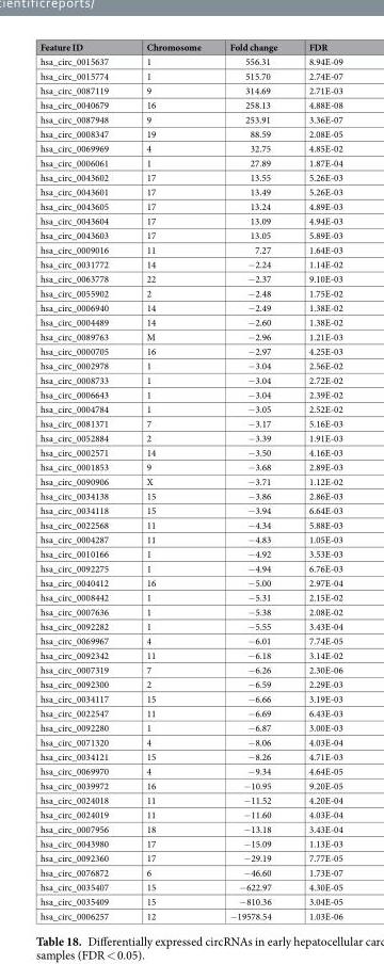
<table><thead><tr><td>Feature ID</td><td>Chromosome</td><td>Fold change</td><td>FDR</td></tr></thead><tbody><tr><td>hsa_circ_0015637</td><td>1</td><td>556.31</td><td>8.94E-09</td></tr><tr><td>hsa_circ_0015774</td><td>1</td><td>515.70</td><td>2.74E-07</td></tr><tr><td>hsa_circ_0087119</td><td>9</td><td>314.69</td><td>2.71E-03</td></tr><tr><td>hsa_circ_0040679</td><td>16</td><td>258.13</td><td>4.88E-08</td></tr><tr><td>hsa_circ_0087948</td><td>9</td><td>253.91</td><td>3.36E-07</td></tr><tr><td>hsa_circ_0008347</td><td>19</td><td>88.59</td><td>2.08E-05</td></tr><tr><td>hsa_circ_0069969</td><td>4</td><td>32.75</td><td>4.85E-02</td></tr><tr><td>hsa_circ_0006061</td><td>1</td><td>27.89</td><td>1.87E-04</td></tr><tr><td>hsa_circ_0043602</td><td>17</td><td>13.55</td><td>5.26E-03</td></tr><tr><td>hsa_circ_0043601</td><td>17</td><td>13.49</td><td>5.26E-03</td></tr><tr><td>hsa_circ_0043605</td><td>17</td><td>13.24</td><td>4.89E-03</td></tr><tr><td>hsa_circ_0043604</td><td>17</td><td>13.09</td><td>4.94E-03</td></tr><tr><td>hsa_circ_0043603</td><td>17</td><td>13.05</td><td>5.89E-03</td></tr><tr><td>hsa_circ_0009016</td><td>11</td><td>7.27</td><td>1.64E-03</td></tr><tr><td>hsa_circ_0031772</td><td>14</td><td>−2.24</td><td>1.14E-02</td></tr><tr><td>hsa_circ_0063778</td><td>22</td><td>−2.37</td><td>9.10E-03</td></tr><tr><td>hsa_circ_0055902</td><td>2</td><td>−2.48</td><td>1.75E-02</td></tr><tr><td>hsa_circ_0006940</td><td>14</td><td>−2.49</td><td>1.38E-02</td></tr><tr><td>hsa_circ_0004489</td><td>14</td><td>−2.60</td><td>1.38E-02</td></tr><tr><td>hsa_circ_0089763</td><td>M</td><td>−2.96</td><td>1.21E-03</td></tr><tr><td>hsa_circ_0000705</td><td>16</td><td>−2.97</td><td>4.25E-03</td></tr><tr><td>hsa_circ_0002978</td><td>1</td><td>−3.04</td><td>2.56E-02</td></tr><tr><td>hsa_circ_0008733</td><td>1</td><td>−3.04</td><td>2.72E-02</td></tr><tr><td>hsa_circ_0006643</td><td>1</td><td>−3.04</td><td>2.39E-02</td></tr><tr><td>hsa_circ_0004784</td><td>1</td><td>−3.05</td><td>2.52E-02</td></tr><tr><td>hsa_circ_0081371</td><td>7</td><td>−3.17</td><td>5.16E-03</td></tr><tr><td>hsa_circ_0052884</td><td>2</td><td>−3.39</td><td>1.91E-03</td></tr><tr><td>hsa_circ_0002571</td><td>14</td><td>−3.50</td><td>4.16E-03</td></tr><tr><td>hsa_circ_0001853</td><td>9</td><td>−3.68</td><td>2.89E-03</td></tr><tr><td>hsa_circ_0090906</td><td>X</td><td>−3.71</td><td>1.12E-02</td></tr><tr><td>hsa_circ_0034138</td><td>15</td><td>−3.86</td><td>2.86E-03</td></tr><tr><td>hsa_circ_0034118</td><td>15</td><td>−3.94</td><td>6.64E-03</td></tr><tr><td>hsa_circ_0022568</td><td>11</td><td>−4.34</td><td>5.88E-03</td></tr><tr><td>hsa_circ_0004287</td><td>11</td><td>−4.83</td><td>1.05E-03</td></tr><tr><td>hsa_circ_0010166</td><td>1</td><td>−4.92</td><td>3.53E-03</td></tr><tr><td>hsa_circ_0092275</td><td>1</td><td>−4.94</td><td>6.76E-03</td></tr><tr><td>hsa_circ_0040412</td><td>16</td><td>−5.00</td><td>2.97E-04</td></tr><tr><td>hsa_circ_0008442</td><td>1</td><td>−5.31</td><td>2.15E-02</td></tr><tr><td>hsa_circ_0007636</td><td>1</td><td>−5.38</td><td>2.08E-02</td></tr><tr><td>hsa_circ_0092282</td><td>1</td><td>−5.55</td><td>3.43E-04</td></tr><tr><td>hsa_circ_0069967</td><td>4</td><td>−6.01</td><td>7.74E-05</td></tr><tr><td>hsa_circ_0092342</td><td>11</td><td>−6.18</td><td>3.14E-02</td></tr><tr><td>hsa_circ_0007319</td><td>7</td><td>−6.26</td><td>2.30E-06</td></tr><tr><td>hsa_circ_0092300</td><td>2</td><td>−6.59</td><td>2.29E-03</td></tr><tr><td>hsa_circ_0034117</td><td>15</td><td>−6.66</td><td>3.19E-03</td></tr><tr><td>hsa_circ_0022547</td><td>11</td><td>−6.69</td><td>6.43E-03</td></tr><tr><td>hsa_circ_0092280</td><td>1</td><td>−6.87</td><td>3.00E-03</td></tr><tr><td>hsa_circ_0071320</td><td>4</td><td>−8.06</td><td>4.03E-04</td></tr><tr><td>hsa_circ_0034121</td><td>15</td><td>−8.26</td><td>4.71E-03</td></tr><tr><td>hsa_circ_0069970</td><td>4</td><td>−9.34</td><td>4.64E-05</td></tr><tr><td>hsa_circ_0039972</td><td>16</td><td>−10.95</td><td>9.20E-05</td></tr><tr><td>hsa_circ_0024018</td><td>11</td><td>−11.52</td><td>4.20E-04</td></tr><tr><td>hsa_circ_0024019</td><td>11</td><td>−11.60</td><td>4.03E-04</td></tr><tr><td>hsa_circ_0007956</td><td>18</td><td>−13.18</td><td>3.43E-04</td></tr><tr><td>hsa_circ_0043980</td><td>17</td><td>−15.09</td><td>1.13E-03</td></tr><tr><td>hsa_circ_0092360</td><td>17</td><td>−29.19</td><td>7.77E-05</td></tr><tr><td>hsa_circ_0076872</td><td>6</td><td>−46.60</td><td>1.73E-07</td></tr><tr><td>hsa_circ_0035407</td><td>15</td><td>−622.97</td><td>4.30E-05</td></tr><tr><td>hsa_circ_0035409</td><td>15</td><td>−810.36</td><td>3.04E-05</td></tr><tr><td>hsa_circ_0006257</td><td>12</td><td>−19578.54</td><td>1.03E-06</td></tr></tbody></table>